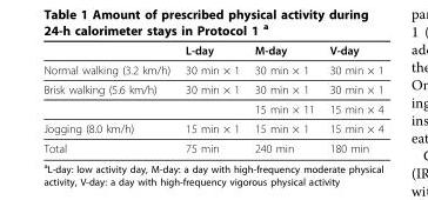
<table><thead><tr><td></td><td>L-day</td><td>M-day</td><td>V-day</td></tr></thead><tbody><tr><td>Normal walking (3.2 km/h)</td><td>30 min × 1</td><td>30 min × 1</td><td>30 min × 1</td></tr><tr><td rowspan="2">Brisk walking (5.6 km/h)</td><td>30 min × 1</td><td>30 min × 1</td><td>30 min × 1</td></tr><tr><td></td><td>15 min × 11</td><td>15 min × 4</td></tr><tr><td>Jogging (8.0 km/h)</td><td>15 min × 1</td><td>15 min × 1</td><td>15 min × 4</td></tr><tr><td>Total</td><td>75 min</td><td>240 min</td><td>180 min</td></tr></tbody></table>